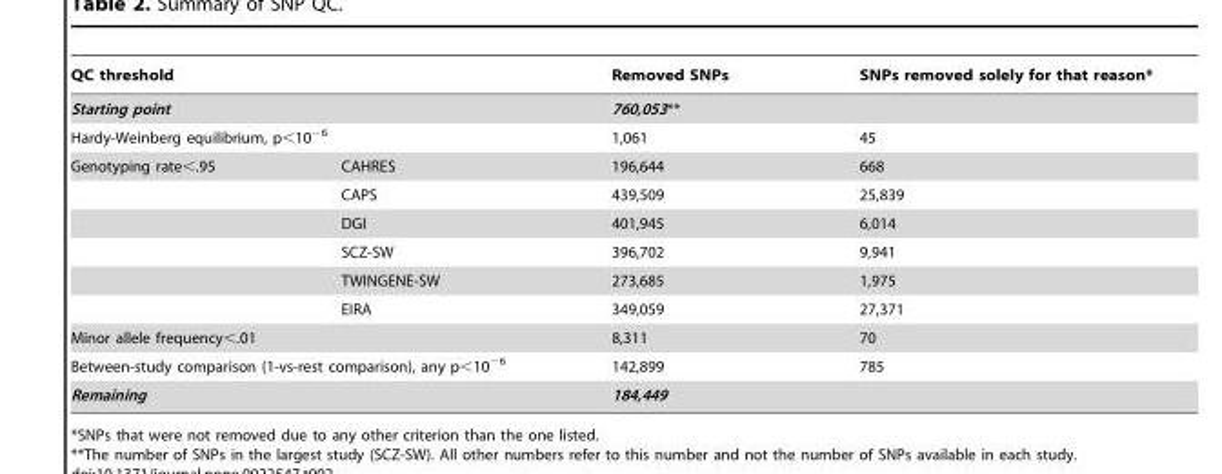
<table><thead><tr><td rowspan="3" colspan="2">QC threshold Starting point Hardy-Weinberg equilibrium, p&lt;10<sup>−6</sup></td><td rowspan="4">Removed SNPs 760,053** 1,061 196,644</td><td rowspan="4">SNPs removed solely for that reason* 45 668</td></tr><tr></tr><tr></tr><tr><td>Genotyping rate&lt;.95</td><td>CAHRES</td></tr></thead><tbody><tr><td></td><td>CAPS</td><td>439,509</td><td>25,839</td></tr><tr><td></td><td>DGI</td><td>401,945</td><td>6,014</td></tr><tr><td></td><td>SCZ-SW</td><td>396,702</td><td>9,941</td></tr><tr><td></td><td>TWINGENE-SW</td><td>273,685</td><td>1,975</td></tr><tr><td></td><td>EIRA</td><td>349,059</td><td>27,371</td></tr><tr><td colspan="2">Minor allele frequency&lt;.01</td><td>8,311</td><td>70</td></tr><tr><td colspan="2">Between-study comparison (1-vs-rest comparison), any p&lt;10<sup>−6</sup></td><td>142,899</td><td>785</td></tr><tr><td colspan="2">Remaining</td><td>184,449</td><td></td></tr></tbody></table>